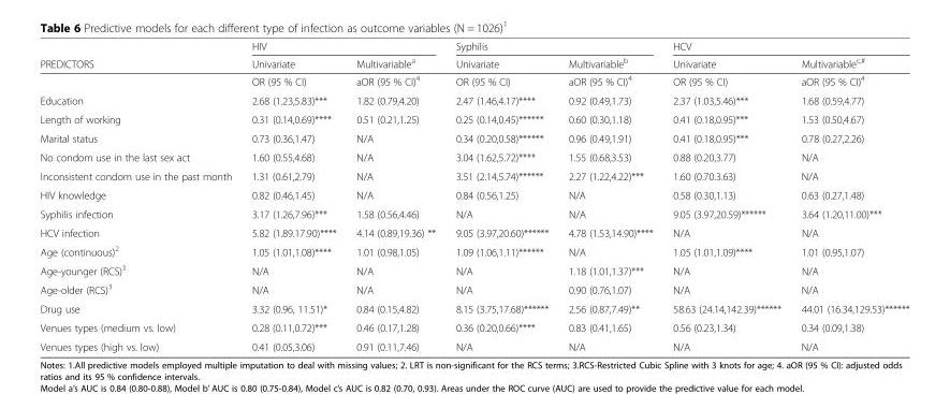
<table><thead><tr><td rowspan="2">PREDICTORS</td><td colspan="2">HIV</td><td colspan="2">Syphilis</td><td colspan="2">HCV</td></tr><tr><td>Univariate</td><td>Multivariable<sup>a</sup></td><td>Univariate</td><td>Multivariable<sup>b</sup></td><td>Univariate</td><td>Multivariable<sup>c,#</sup></td></tr></thead><tbody><tr><td></td><td>OR (95 % CI)</td><td>aOR (95 % CI)<sup>4</sup></td><td>OR (95 % CI)</td><td>aOR (95 % CI)<sup>4</sup></td><td>OR (95 % CI)</td><td>aOR (95 % CI)<sup>4</sup></td></tr><tr><td>Education</td><td>2.68 (1.23,5.83)***</td><td>1.82 (0.79,4.20)</td><td>2.47 (1.46,4.17)****</td><td>0.92 (0.49,1.73)</td><td>2.37 (1.03,5.46)***</td><td>1.68 (0.59,4.77)</td></tr><tr><td>Length of working</td><td>0.31 (0.14,0.69)****</td><td>0.51 (0.21,1.25)</td><td>0.25 (0.14,0.45)******</td><td>0.60 (0.30,1.18)</td><td>0.41 (0.18,0.95)***</td><td>1.53 (0.50,4.67)</td></tr><tr><td>Marital status</td><td>0.73 (0.36,1.47)</td><td>N/A</td><td>0.34 (0.20,0.58)******</td><td>0.96 (0.49,1.91)</td><td>0.41 (0.18,0.95)***</td><td>0.78 (0.27,2.26)</td></tr><tr><td>No condom use in the last sex act</td><td>1.60 (0.55,4.68)</td><td>N/A</td><td>3.04 (1.62,5.72)****</td><td>1.55 (0.68,3.53)</td><td>0.88 (0.20,3.77)</td><td>N/A</td></tr><tr><td>Inconsistent condom use in the past month</td><td>1.31 (0.61,2.79)</td><td>N/A</td><td>3.51 (2.14,5.74)******</td><td>2.27 (1.22,4.22)***</td><td>1.60 (0.70.3.63)</td><td>N/A</td></tr><tr><td>HIV knowledge</td><td>0.82 (0.46,1.45)</td><td>N/A</td><td>0.84 (0.56,1.25)</td><td>N/A</td><td>0.58 (0.30,1.13)</td><td>0.63 (0.27,1.48)</td></tr><tr><td>Syphilis infection</td><td>3.17 (1.26,7.96)***</td><td>1.58 (0.56,4.46)</td><td>N/A</td><td>N/A</td><td>9.05 (3.97,20.59)******</td><td>3.64 (1.20,11.00)***</td></tr><tr><td>HCV infection</td><td>5.82 (1.89.17.90)****</td><td>4.14 (0.89,19.36) **</td><td>9.05 (3.97,20.60)******</td><td>4.78 (1.53,14.90)****</td><td>N/A</td><td>N/A</td></tr><tr><td>Age (continuous)<sup>2</sup></td><td>1.05 (1.01,1.08)****</td><td>1.01 (0.98,1.05)</td><td>1.09 (1.06,1.11)******</td><td>N/A</td><td>1.05 (1.01,1.09)****</td><td>1.01 (0.95,1.07)</td></tr><tr><td>Age-younger (RCS)<sup>3</sup></td><td>N/A</td><td>N/A</td><td>N/A</td><td>1.18 (1.01,1.37)***</td><td>N/A</td><td>N/A</td></tr><tr><td>Age-older (RCS)<sup>3</sup></td><td>N/A</td><td>N/A</td><td>N/A</td><td>0.90 (0.76,1.07)</td><td>N/A</td><td>N/A</td></tr><tr><td>Drug use</td><td>3.32 (0.96, 11.51)*</td><td>0.84 (0.15,4.82)</td><td>8.15 (3.75,17.68)******</td><td>2.56 (0.87,7.49)**</td><td>58.63 (24.14,142.39)******</td><td>44.01 (16.34,129.53)******</td></tr><tr><td>Venues types (medium vs. low)</td><td>0.28 (0.11,0.72)***</td><td>0.46 (0.17,1.28)</td><td>0.36 (0.20,0.66)****</td><td>0.83 (0.41,1.65)</td><td>0.56 (0.23,1.34)</td><td>0.34 (0.09,1.38)</td></tr><tr><td>Venues types (high vs. low)</td><td>0.41 (0.05,3.06)</td><td>0.91 (0.11,7.46)</td><td>N/A</td><td>N/A</td><td>N/A</td><td>N/A</td></tr></tbody></table>